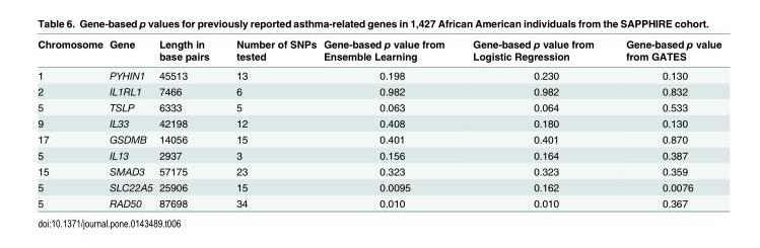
<table><thead><tr><td>Chromosome</td><td>Gene</td><td>Length in base pairs</td><td>Number of SNPs tested</td><td>Gene-based p value from Ensemble Learning</td><td>Gene-based p value from Logistic Regression</td><td>Gene-based p value from GATES</td></tr></thead><tbody><tr><td>1</td><td>PYHIN1</td><td>45513</td><td>13</td><td>0.198</td><td>0.230</td><td>0.130</td></tr><tr><td>2</td><td>IL1RL1</td><td>7466</td><td>6</td><td>0.982</td><td>0.982</td><td>0.832</td></tr><tr><td>5</td><td>TSLP</td><td>6333</td><td>5</td><td>0.063</td><td>0.064</td><td>0.533</td></tr><tr><td>9</td><td>IL33</td><td>42198</td><td>12</td><td>0.408</td><td>0.180</td><td>0.130</td></tr><tr><td>17</td><td>GSDMB</td><td>14056</td><td>15</td><td>0.401</td><td>0.401</td><td>0.870</td></tr><tr><td>5</td><td>IL13</td><td>2937</td><td>3</td><td>0.156</td><td>0.164</td><td>0.387</td></tr><tr><td>15</td><td>SMAD3</td><td>57175</td><td>23</td><td>0.323</td><td>0.323</td><td>0.359</td></tr><tr><td>5</td><td>SLC22A5</td><td>25906</td><td>15</td><td>0.0095</td><td>0.162</td><td>0.0076</td></tr><tr><td>5</td><td>RAD50</td><td>87698</td><td>34</td><td>0.010</td><td>0.010</td><td>0.367</td></tr></tbody></table>